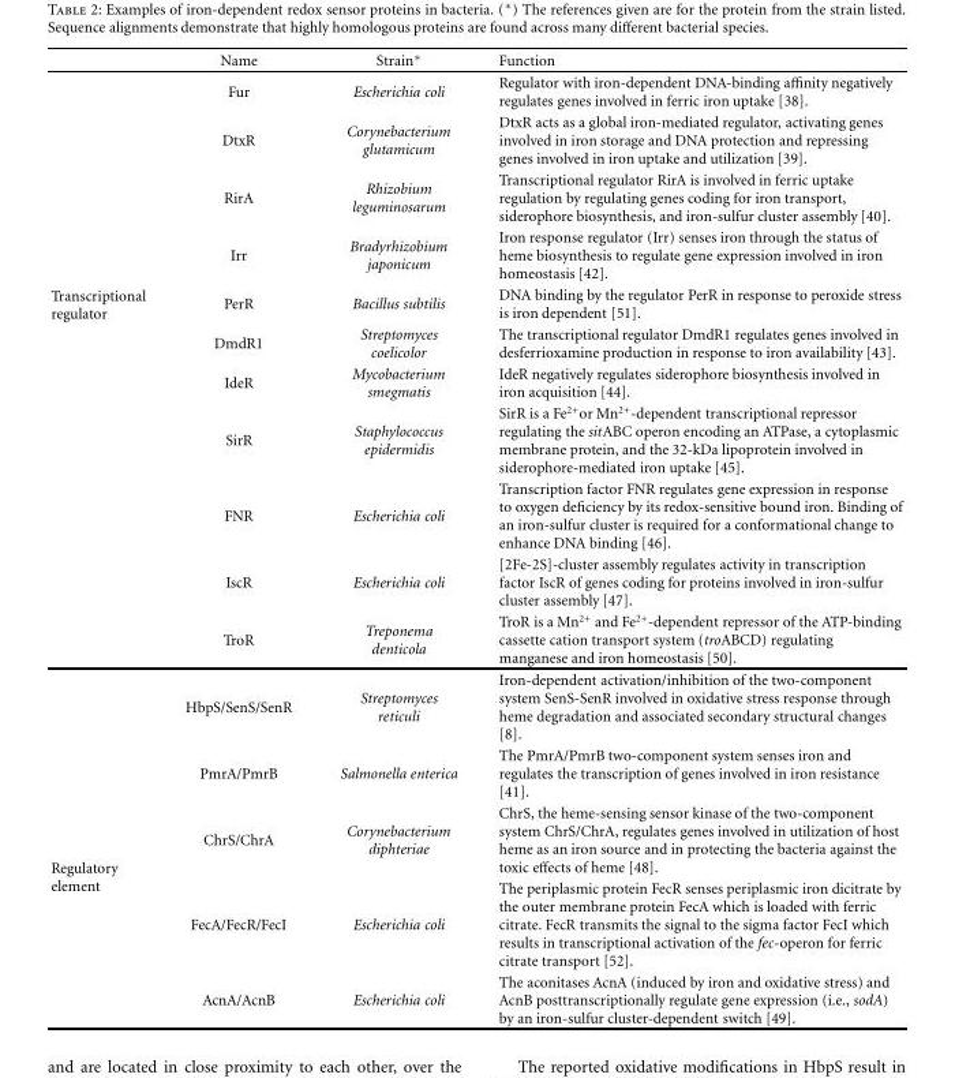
<table><thead><tr><td></td><td>Name</td><td>Strain∗</td><td>Function</td></tr></thead><tbody><tr><td rowspan="11">Transcriptional regulator</td><td>Fur</td><td>Escherichia coli</td><td>Regulator with iron-dependent DNA-binding affinity negatively regulates genes involved in ferric iron uptake [38].</td></tr><tr><td>DtxR</td><td>Corynebacterium glutamicum</td><td>DtxR acts as a global iron-mediated regulator, activating genes involved in iron storage and DNA protection and repressing genes involved in iron uptake and utilization [39].</td></tr><tr><td>RirA</td><td>Rhizobium leguminosarum</td><td>Transcriptional regulator RirA is involved in ferric uptake regulation by regulating genes coding for iron transport, siderophore biosynthesis, and iron-sulfur cluster assembly [40].</td></tr><tr><td>Irr</td><td>Bradyrhizobium japonicum</td><td>Iron response regulator (Irr) senses iron through the status of heme biosynthesis to regulate gene expression involved in iron homeostasis [42].</td></tr><tr><td>PerR</td><td>Bacillus subtilis</td><td>DNA binding by the regulator PerR in response to peroxide stress is iron dependent [51].</td></tr><tr><td>DmdR1</td><td>Streptomyces coelicolor</td><td>The transcriptional regulator DmdR1 regulates genes involved in desferrioxamine production in response to iron availability [43].</td></tr><tr><td>IdeR</td><td>Mycobacterium smegmatis</td><td>IdeR negatively regulates siderophore biosynthesis involved in iron acquisition [44].</td></tr><tr><td>SirR</td><td>Staphylococcus epidermidis</td><td>SirR is a Fe<sup>2+</sup>or Mn<sup>2+</sup>-dependent transcriptional repressor regulating the sitABC operon encoding an ATPase, a cytoplasmic membrane protein, and the 32-kDa lipoprotein involved in siderophore-mediated iron uptake [45].</td></tr><tr><td>FNR</td><td>Escherichia coli</td><td>Transcription factor FNR regulates gene expression in response to oxygen deficiency by its redox-sensitive bound iron. Binding of an iron-sulfur cluster is required for a conformational change to enhance DNA binding [46].</td></tr><tr><td>IscR</td><td>Escherichia coli</td><td>[2Fe-2S]-cluster assembly regulates activity in transcription factor IscR of genes coding for proteins involved in iron-sulfur cluster assembly [47].</td></tr><tr><td>TroR</td><td>Treponema denticola</td><td>TroR is a Mn<sup>2+</sup> and Fe<sup>2+</sup>-dependent repressor of the ATP-binding cassette cation transport system (troABCD) regulating manganese and iron homeostasis [50].</td></tr><tr><td rowspan="5">Regulatory element</td><td>HbpS/SenS/SenR</td><td>Streptomyces reticuli</td><td>Iron-dependent activation/inhibition of the two-component system SenS-SenR involved in oxidative stress response through heme degradation and associated secondary structural changes [8].</td></tr><tr><td>PmrA/PmrB</td><td>Salmonella enterica</td><td>The PmrA/PmrB two-component system senses iron and regulates the transcription of genes involved in iron resistance [41].</td></tr><tr><td>ChrS/ChrA</td><td>Corynebacterium diphteriae</td><td>ChrS, the heme-sensing sensor kinase of the two-component system ChrS/ChrA, regulates genes involved in utilization of host heme as an iron source and in protecting the bacteria against the toxic effects of heme [48].</td></tr><tr><td>FecA/FecR/FecI</td><td>Escherichia coli</td><td>The periplasmic protein FecR senses periplasmic iron dicitrate by the outer membrane protein FecA which is loaded with ferric citrate. FecR transmits the signal to the sigma factor FecI which results in transcriptional activation of the fec-operon for ferric citrate transport [52].</td></tr><tr><td>AcnA/AcnB</td><td>Escherichia coli</td><td>The aconitases AcnA (induced by iron and oxidative stress) and AcnB posttranscriptionally regulate gene expression (i.e., sodA) by an iron-sulfur cluster-dependent switch [49].</td></tr></tbody></table>